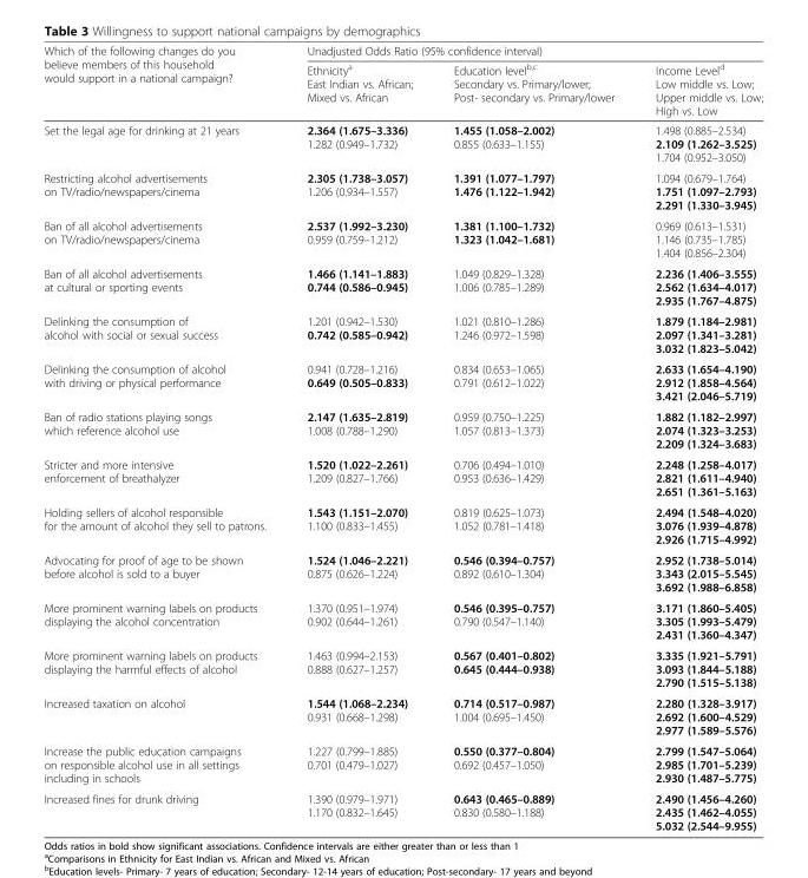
<table><thead><tr><td rowspan="2">Which of the following changes do you believe members of this household would support in a national campaign?</td><td colspan="3">Unadjusted Odds Ratio (95% confidence interval)</td></tr><tr><td>Ethnicity<sup>a</sup> East Indian vs. African; Mixed vs. African</td><td>Education level<sup>b,c</sup> Secondary vs. Primary/lower; Post- secondary vs. Primary/lower</td><td>Income Level<sup>d</sup> Low middle vs. Low; Upper middle vs. Low; High vs. Low</td></tr></thead><tbody><tr><td>Set the legal age for drinking at 21 years</td><td>2.364 (1.675–3.336) 1.282 (0.949–1.732)</td><td>1.455 (1.058–2.002) 0.855 (0.633–1.155)</td><td>1.498 (0.885–2.534) 2.109 (1.262–3.525) 1.704 (0.952–3.050)</td></tr><tr><td>Restricting alcohol advertisements on TV/radio/newspapers/cinema</td><td>2.305 (1.738–3.057) 1.206 (0.934–1.557)</td><td>1.391 (1.077–1.797) 1.476 (1.122–1.942)</td><td>1.094 (0.679–1.764) 1.751 (1.097–2.793) 2.291 (1.330–3.945)</td></tr><tr><td>Ban of all alcohol advertisements on TV/radio/newspapers/cinema</td><td>2.537 (1.992–3.230) 0.959 (0.759–1.212)</td><td>1.381 (1.100–1.732) 1.323 (1.042–1.681)</td><td>0.969 (0.613–1.531) 1.146 (0.735–1.785) 1.404 (0.856–2.304)</td></tr><tr><td>Ban of all alcohol advertisements at cultural or sporting events</td><td>1.466 (1.141–1.883) 0.744 (0.586–0.945)</td><td>1.049 (0.829–1.328) 1.006 (0.785–1.289)</td><td>2.236 (1.406–3.555) 2.562 (1.634–4.017) 2.935 (1.767–4.875)</td></tr><tr><td>Delinking the consumption of alcohol with social or sexual success</td><td>1.201 (0.942–1.530) 0.742 (0.585–0.942)</td><td>1.021 (0.810–1.286) 1.246 (0.972–1.598)</td><td>1.879 (1.184–2.981) 2.097 (1.341–3.281) 3.032 (1.823–5.042)</td></tr><tr><td>Delinking the consumption of alcohol with driving or physical performance</td><td>0.941 (0.728–1.216) 0.649 (0.505–0.833)</td><td>0.834 (0.653–1.065) 0.791 (0.612–1.022)</td><td>2.633 (1.654–4.190) 2.912 (1.858–4.564) 3.421 (2.046–5.719)</td></tr><tr><td>Ban of radio stations playing songs which reference alcohol use</td><td>2.147 (1.635–2.819) 1.008 (0.788–1.290)</td><td>0.959 (0.750–1.225) 1.057 (0.813–1.373)</td><td>1.882 (1.182–2.997) 2.074 (1.323–3.253) 2.209 (1.324–3.683)</td></tr><tr><td>Stricter and more intensive enforcement of breathalyzer</td><td>1.520 (1.022–2.261) 1.209 (0.827–1.766)</td><td>0.706 (0.494–1.010) 0.953 (0.636–1.429)</td><td>2.248 (1.258–4.017) 2.821 (1.611–4.940) 2.651 (1.361–5.163)</td></tr><tr><td>Holding sellers of alcohol responsible for the amount of alcohol they sell to patrons.</td><td>1.543 (1.151–2.070) 1.100 (0.833–1.455)</td><td>0.819 (0.625–1.073) 1.052 (0.781–1.418)</td><td>2.494 (1.548–4.020) 3.076 (1.939–4.878) 2.926 (1.715–4.992)</td></tr><tr><td>Advocating for proof of age to be shown before alcohol is sold to a buyer</td><td>1.524 (1.046–2.221) 0.875 (0.626–1.224)</td><td>0.546 (0.394–0.757) 0.892 (0.610–1.304)</td><td>2.952 (1.738–5.014) 3.343 (2.015–5.545) 3.692 (1.988–6.858)</td></tr><tr><td>More prominent warning labels on products displaying the alcohol concentration</td><td>1.370 (0.951–1.974) 0.902 (0.644–1.261)</td><td>0.546 (0.395–0.757) 0.790 (0.547–1.140)</td><td>3.171 (1.860–5.405) 3.305 (1.993–5.479) 2.431 (1.360–4.347)</td></tr><tr><td>More prominent warning labels on products displaying the harmful effects of alcohol</td><td>1.463 (0.994–2.153) 0.888 (0.627–1.257)</td><td>0.567 (0.401–0.802) 0.645 (0.444–0.938)</td><td>3.335 (1.921–5.791) 3.093 (1.844–5.188) 2.790 (1.515–5.138)</td></tr><tr><td>Increased taxation on alcohol</td><td>1.544 (1.068–2.234) 0.931 (0.668–1.298)</td><td>0.714 (0.517–0.987) 1.004 (0.695–1.450)</td><td>2.280 (1.328–3.917) 2.692 (1.600–4.529) 2.977 (1.589–5.576)</td></tr><tr><td>Increase the public education campaigns on responsible alcohol use in all settings including in schools</td><td>1.227 (0.799–1.885) 0.701 (0.479–1.027)</td><td>0.550 (0.377–0.804) 0.692 (0.457–1.050)</td><td>2.799 (1.547–5.064) 2.985 (1.701–5.239) 2.930 (1.487–5.775)</td></tr><tr><td>Increased fines for drunk driving</td><td>1.390 (0.979–1.971) 1.170 (0.832–1.645)</td><td>0.643 (0.465–0.889) 0.830 (0.580–1.188)</td><td>2.490 (1.456–4.260) 2.435 (1.462–4.055) 5.032 (2.544–9.955)</td></tr></tbody></table>